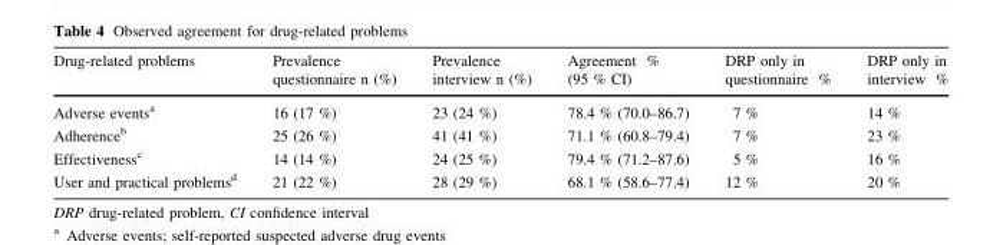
<table><thead><tr><td>Drug-related problems</td><td>Prevalence questionnaire n (%)</td><td>Prevalence interview n (%)</td><td>Agreement % (95 % CI)</td><td>DRP only in questionnaire %</td><td>DRP only in interview %</td></tr></thead><tbody><tr><td>Adverse events<sup>a</sup></td><td>16 (17 %)</td><td>23 (24 %)</td><td>78.4 % (70.0–86.7)</td><td>7 %</td><td>14 %</td></tr><tr><td>Adherence<sup>b</sup></td><td>25 (26 %)</td><td>41 (41 %)</td><td>71.1 % (60.8–79.4)</td><td>7 %</td><td>23 %</td></tr><tr><td>Effectiveness<sup>c</sup></td><td>14 (14 %)</td><td>24 (25 %)</td><td>79.4 % (71.2–87.6)</td><td>5 %</td><td>16 %</td></tr><tr><td>User and practical problems<sup>d</sup></td><td>21 (22 %)</td><td>28 (29 %)</td><td>68.1 % (58.6–77.4)</td><td>12 %</td><td>20 %</td></tr></tbody></table>